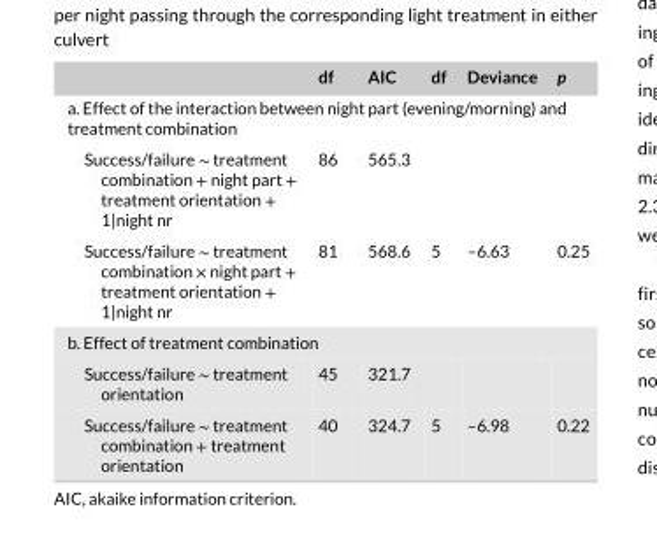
<table><thead><tr><td></td><td>df</td><td>AIC</td><td>df</td><td>Deviance</td><td>p</td></tr></thead><tbody><tr><td colspan="6">a. Effect of the interaction between night part (evening/morning) and treatment combination</td></tr><tr><td>Success/failure ∼ treatment combination + night part + treatment orientation + 1|night nr</td><td>86</td><td>565.3</td><td></td><td></td><td></td></tr><tr><td>Success/failure ∼ treatment combination × night part + treatment orientation + 1|night nr</td><td>81</td><td>568.6</td><td>5</td><td>–6.63</td><td>0.25</td></tr><tr><td colspan="6">b. Effect of treatment combination</td></tr><tr><td>Success/failure ∼ treatment orientation</td><td>45</td><td>321.7</td><td></td><td></td><td></td></tr><tr><td>Success/failure ∼ treatment combination + treatment orientation</td><td>40</td><td>324.7</td><td>5</td><td>–6.98</td><td>0.22</td></tr></tbody></table>